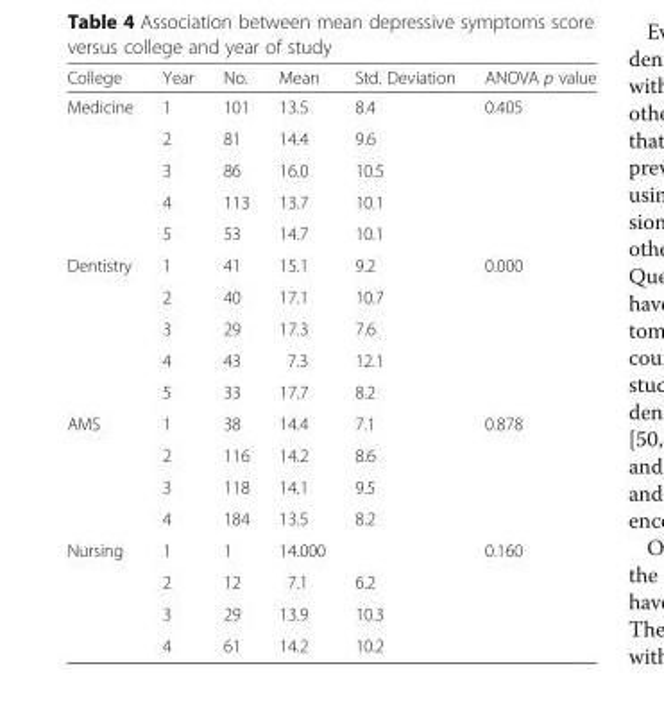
<table><thead><tr><td>College</td><td>Year</td><td>No.</td><td>Mean</td><td>Std. Deviation</td><td>ANOVA p value</td></tr></thead><tbody><tr><td rowspan="5">Medicine</td><td>1</td><td>101</td><td>13.5</td><td>8.4</td><td rowspan="5">0.405</td></tr><tr><td>2</td><td>81</td><td>14.4</td><td>9.6</td></tr><tr><td>3</td><td>86</td><td>16.0</td><td>10.5</td></tr><tr><td>4</td><td>113</td><td>13.7</td><td>10.1</td></tr><tr><td>5</td><td>53</td><td>14.7</td><td>10.1</td></tr><tr><td rowspan="5">Dentistry</td><td>1</td><td>41</td><td>15.1</td><td>9.2</td><td rowspan="5">0.000</td></tr><tr><td>2</td><td>40</td><td>17.1</td><td>10.7</td></tr><tr><td>3</td><td>29</td><td>17.3</td><td>7.6</td></tr><tr><td>4</td><td>43</td><td>7.3</td><td>12.1</td></tr><tr><td>5</td><td>33</td><td>17.7</td><td>8.2</td></tr><tr><td rowspan="4">AMS</td><td>1</td><td>38</td><td>14.4</td><td>7.1</td><td rowspan="4">0.878</td></tr><tr><td>2</td><td>116</td><td>14.2</td><td>8.6</td></tr><tr><td>3</td><td>118</td><td>14.1</td><td>9.5</td></tr><tr><td>4</td><td>184</td><td>13.5</td><td>8.2</td></tr><tr><td rowspan="4">Nursing</td><td>1</td><td>1</td><td>14.000</td><td></td><td rowspan="4">0.160</td></tr><tr><td>2</td><td>12</td><td>7.1</td><td>6.2</td></tr><tr><td>3</td><td>29</td><td>13.9</td><td>10.3</td></tr><tr><td>4</td><td>61</td><td>14.2</td><td>10.2</td></tr></tbody></table>